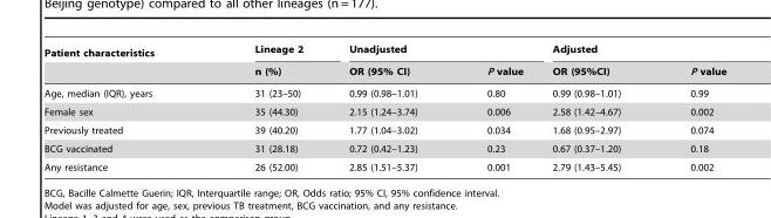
<table><thead><tr><td rowspan="2">Patient characteristics</td><td rowspan="2">Lineage 2 n (%)</td><td colspan="2">Unadjusted</td><td colspan="2">Adjusted</td></tr><tr><td>OR (95% CI)</td><td>P value</td><td>OR (95%CI)</td><td>P value</td></tr></thead><tbody><tr><td>Age, median (IQR), years</td><td>31 (23–50)</td><td>0.99 (0.98–1.01)</td><td>0.80</td><td>0.99 (0.98–1.01)</td><td>0.99</td></tr><tr><td>Female sex</td><td>35 (44.30)</td><td>2.15 (1.24–3.74)</td><td>0.006</td><td>2.58 (1.42–4.67)</td><td>0.002</td></tr><tr><td>Previously treated</td><td>39 (40.20)</td><td>1.77 (1.04–3.02)</td><td>0.034</td><td>1.68 (0.95–2.97)</td><td>0.074</td></tr><tr><td>BCG vaccinated</td><td>31 (28.18)</td><td>0.72 (0.42–1.23)</td><td>0.23</td><td>0.67 (0.37–1.20)</td><td>0.18</td></tr><tr><td>Any resistance</td><td>26 (52.00)</td><td>2.85 (1.51–5.37)</td><td>0.001</td><td>2.79 (1.43–5.45)</td><td>0.002</td></tr></tbody></table>